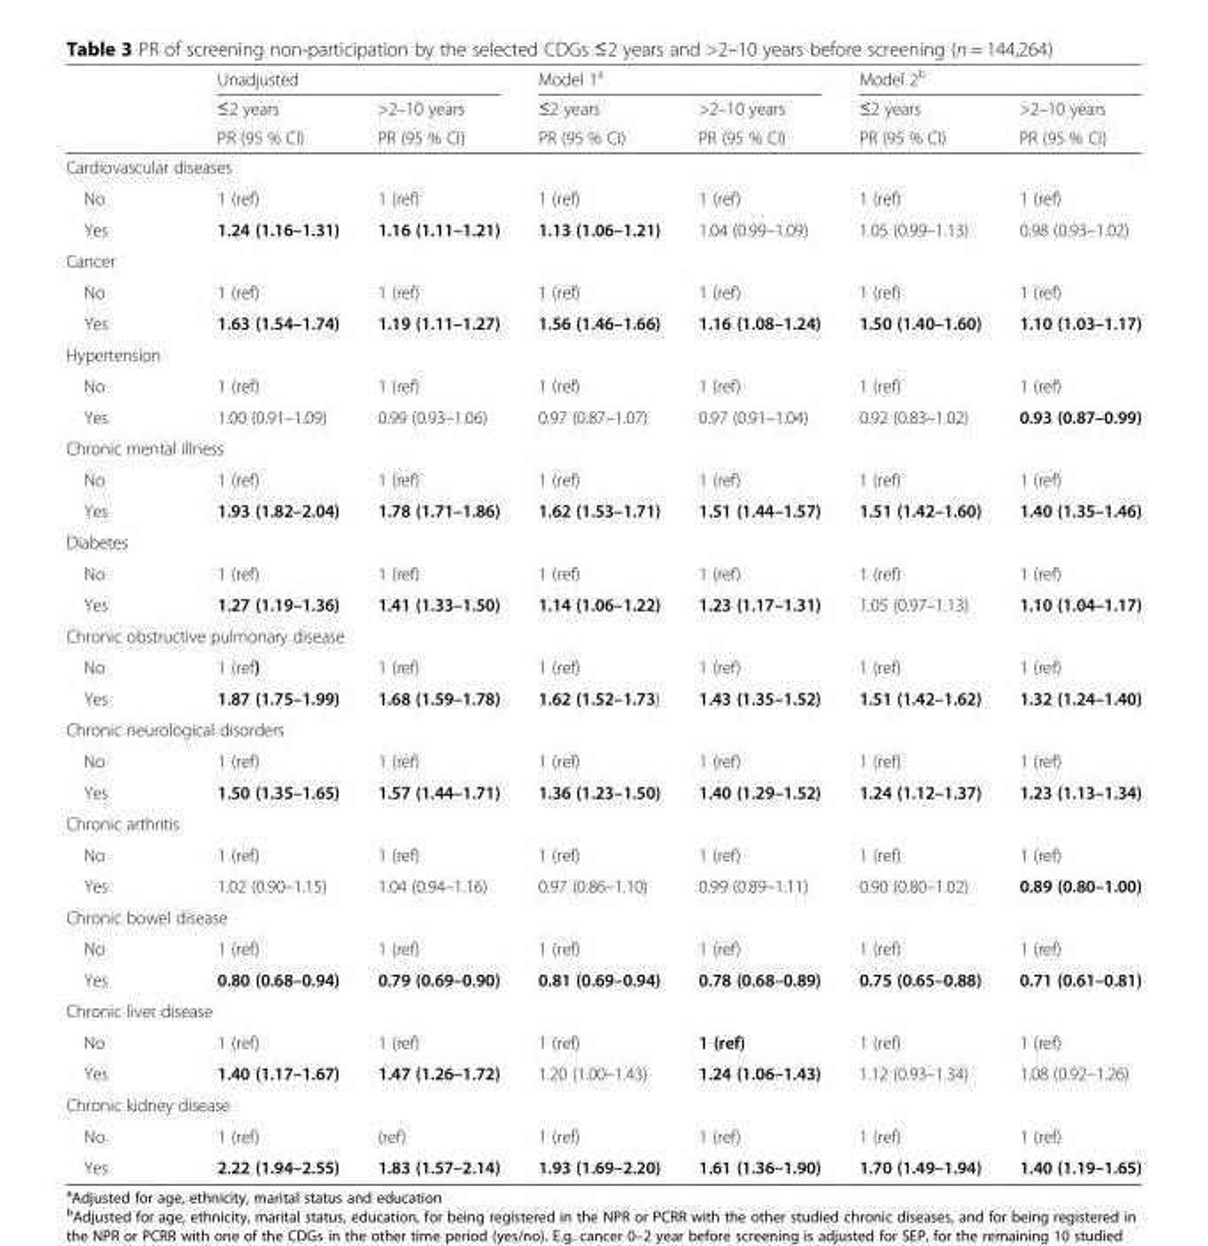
<table><thead><tr><td rowspan="3"></td><td colspan="2">Unadjusted</td><td colspan="2">Model 1<sup>a</sup></td><td colspan="2">Model 2<sup>b</sup></td></tr><tr><td rowspan="2">≤2 years PR (95 % CI)</td><td rowspan="2">&gt;2–10 years PR (95 % CI)</td><td rowspan="2">≤2 years PR (95 % CI)</td><td rowspan="2">&gt;2–10 years PR (95 % CI)</td><td rowspan="2">≤2 years PR (95 % CI)</td><td rowspan="2">&gt;2–10 years PR (95 % CI)</td></tr><tr></tr></thead><tbody><tr><td colspan="7">Cardiovascular diseases</td></tr><tr><td>No</td><td>1 (ref)</td><td>1 (ref)</td><td>1 (ref)</td><td>1 (ref)</td><td>1 (ref)</td><td>1 (ref)</td></tr><tr><td>Yes</td><td>1.24 (1.16–1.31)</td><td>1.16 (1.11–1.21)</td><td>1.13 (1.06–1.21)</td><td>1.04 (0.99–1.09)</td><td>1.05 (0.99–1.13)</td><td>0.98 (0.93–1.02)</td></tr><tr><td colspan="7">Cancer</td></tr><tr><td>No</td><td>1 (ref)</td><td>1 (ref)</td><td>1 (ref)</td><td>1 (ref)</td><td>1 (ref)</td><td>1 (ref)</td></tr><tr><td>Yes</td><td>1.63 (1.54–1.74)</td><td>1.19 (1.11–1.27)</td><td>1.56 (1.46–1.66)</td><td>1.16 (1.08–1.24)</td><td>1.50 (1.40–1.60)</td><td>1.10 (1.03–1.17)</td></tr><tr><td colspan="7">Hypertension</td></tr><tr><td>No</td><td>1 (ref)</td><td>1 (ref)</td><td>1 (ref)</td><td>1 (ref)</td><td>1 (ref)</td><td>1 (ref)</td></tr><tr><td>Yes</td><td>1.00 (0.91–1.09)</td><td>0.99 (0.93–1.06)</td><td>0.97 (0.87–1.07)</td><td>0.97 (0.91–1.04)</td><td>0.92 (0.83–1.02)</td><td>0.93 (0.87–0.99)</td></tr><tr><td colspan="7">Chronic mental illness</td></tr><tr><td>No</td><td>1 (ref)</td><td>1 (ref)</td><td>1 (ref)</td><td>1 (ref)</td><td>1 (ref)</td><td>1 (ref)</td></tr><tr><td>Yes</td><td>1.93 (1.82–2.04)</td><td>1.78 (1.71–1.86)</td><td>1.62 (1.53–1.71)</td><td>1.51 (1.44–1.57)</td><td>1.51 (1.42–1.60)</td><td>1.40 (1.35–1.46)</td></tr><tr><td colspan="7">Diabetes</td></tr><tr><td>No</td><td>1 (ref)</td><td>1 (ref)</td><td>1 (ref)</td><td>1 (ref)</td><td>1 (ref)</td><td>1 (ref)</td></tr><tr><td>Yes</td><td>1.27 (1.19–1.36)</td><td>1.41 (1.33–1.50)</td><td>1.14 (1.06–1.22)</td><td>1.23 (1.17–1.31)</td><td>1.05 (0.97–1.13)</td><td>1.10 (1.04–1.17)</td></tr><tr><td colspan="7">Chronic obstructive pulmonary disease</td></tr><tr><td>No</td><td>1 (ref)</td><td>1 (ref)</td><td>1 (ref)</td><td>1 (ref)</td><td>1 (ref)</td><td>1 (ref)</td></tr><tr><td>Yes</td><td>1.87 (1.75–1.99)</td><td>1.68 (1.59–1.78)</td><td>1.62 (1.52–1.73)</td><td>1.43 (1.35–1.52)</td><td>1.51 (1.42–1.62)</td><td>1.32 (1.24–1.40)</td></tr><tr><td colspan="7">Chronic neurological disorders</td></tr><tr><td>No</td><td>1 (ref)</td><td>1 (ref)</td><td>1 (ref)</td><td>1 (ref)</td><td>1 (ref)</td><td>1 (ref)</td></tr><tr><td>Yes</td><td>1.50 (1.35–1.65)</td><td>1.57 (1.44–1.71)</td><td>1.36 (1.23–1.50)</td><td>1.40 (1.29–1.52)</td><td>1.24 (1.12–1.37)</td><td>1.23 (1.13–1.34)</td></tr><tr><td colspan="7">Chronic arthritis</td></tr><tr><td>No</td><td>1 (ref)</td><td>1 (ref)</td><td>1 (ref)</td><td>1 (ref)</td><td>1 (ref)</td><td>1 (ref)</td></tr><tr><td>Yes</td><td>1.02 (0.90–1.15)</td><td>1.04 (0.94–1.16)</td><td>0.97 (0.86–1.10)</td><td>0.99 (0.89–1.11)</td><td>0.90 (0.80–1.02)</td><td>0.89 (0.80–1.00)</td></tr><tr><td colspan="7">Chronic bowel disease</td></tr><tr><td>No</td><td>1 (ref)</td><td>1 (ref)</td><td>1 (ref)</td><td>1 (ref)</td><td>1 (ref)</td><td>1 (ref)</td></tr><tr><td>Yes</td><td>0.80 (0.68–0.94)</td><td>0.79 (0.69–0.90)</td><td>0.81 (0.69–0.94)</td><td>0.78 (0.68–0.89)</td><td>0.75 (0.65–0.88)</td><td>0.71 (0.61–0.81)</td></tr><tr><td colspan="7">Chronic liver disease</td></tr><tr><td>No</td><td>1 (ref)</td><td>1 (ref)</td><td>1 (ref)</td><td>1 (ref)</td><td>1 (ref)</td><td>1 (ref)</td></tr><tr><td>Yes</td><td>1.40 (1.17–1.67)</td><td>1.47 (1.26–1.72)</td><td>1.20 (1.00–1.43)</td><td>1.24 (1.06–1.43)</td><td>1.12 (0.93–1.34)</td><td>1.08 (0.92–1.26)</td></tr><tr><td colspan="7">Chronic kidney disease</td></tr><tr><td>No</td><td>1 (ref)</td><td>(ref)</td><td>1 (ref)</td><td>1 (ref)</td><td>1 (ref)</td><td>1 (ref)</td></tr><tr><td>Yes</td><td>2.22 (1.94–2.55)</td><td>1.83 (1.57–2.14)</td><td>1.93 (1.69–2.20)</td><td>1.61 (1.36–1.90)</td><td>1.70 (1.49–1.94)</td><td>1.40 (1.19–1.65)</td></tr></tbody></table>